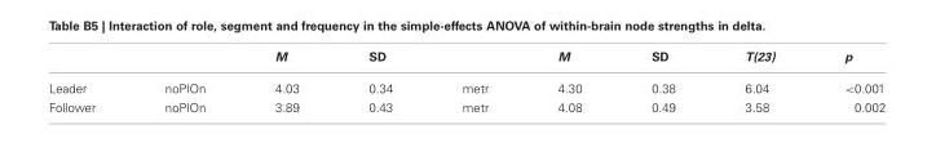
<table><thead><tr><td></td><td></td><td>M</td><td>SD</td><td></td><td>M</td><td>SD</td><td>T(23)</td><td>p</td></tr></thead><tbody><tr><td>Leader</td><td>noPlOn</td><td>4.03</td><td>0.34</td><td>metr</td><td>4.30</td><td>0.38</td><td>6.04</td><td>&lt;0.001</td></tr><tr><td>Follower</td><td>noPlOn</td><td>3.89</td><td>0.43</td><td>metr</td><td>4.08</td><td>0.49</td><td>3.58</td><td>0.002</td></tr></tbody></table>